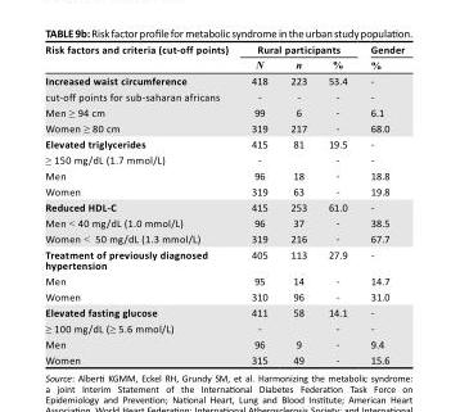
<table><thead><tr><td rowspan="2">Risk factors and criteria (cut-off points)</td><td colspan="3">Rural participants</td><td rowspan="2">Gender %</td></tr><tr><td>N</td><td>n</td><td>%</td></tr></thead><tbody><tr><td>Increased waist circumference</td><td>418</td><td>223</td><td>53.4</td><td>-</td></tr><tr><td>cut-off points for sub-saharan africans</td><td>-</td><td>-</td><td>-</td><td>-</td></tr><tr><td>Men ≥ 94 cm</td><td>99</td><td>6</td><td>-</td><td>6.1</td></tr><tr><td>Women ≥ 80 cm</td><td>319</td><td>217</td><td>-</td><td>68.0</td></tr><tr><td>Elevated triglycerides</td><td>415</td><td>81</td><td>19.5</td><td>-</td></tr><tr><td>≥ 150 mg/dL (1.7 mmol/L)</td><td>-</td><td></td><td>-</td><td>-</td></tr><tr><td>Men</td><td>96</td><td>18</td><td>-</td><td>18.8</td></tr><tr><td>Women</td><td>319</td><td>63</td><td>-</td><td>19.8</td></tr><tr><td>Reduced HDL-C</td><td>415</td><td>253</td><td>61.0</td><td>-</td></tr><tr><td>Men &lt; 40 mg/dL (1.0 mmol/L)</td><td>96</td><td>37</td><td>-</td><td>38.5</td></tr><tr><td>Women &lt; 50 mg/dL (1.3 mmol/L)</td><td>319</td><td>216</td><td>-</td><td>67.7</td></tr><tr><td>Treatment of previously diagnosed hypertension</td><td>405</td><td>113</td><td>27.9</td><td>-</td></tr><tr><td>Men</td><td>95</td><td>14</td><td>-</td><td>14.7</td></tr><tr><td>Women</td><td>310</td><td>96</td><td>-</td><td>31.0</td></tr><tr><td>Elevated fasting glucose</td><td>411</td><td>58</td><td>14.1</td><td>-</td></tr><tr><td>≥ 100 mg/dL (≥ 5.6 mmol/L)</td><td>-</td><td></td><td>-</td><td>-</td></tr><tr><td>Men</td><td>96</td><td>9</td><td>-</td><td>9.4</td></tr><tr><td>Women</td><td>315</td><td>49</td><td>-</td><td>15.6</td></tr></tbody></table>